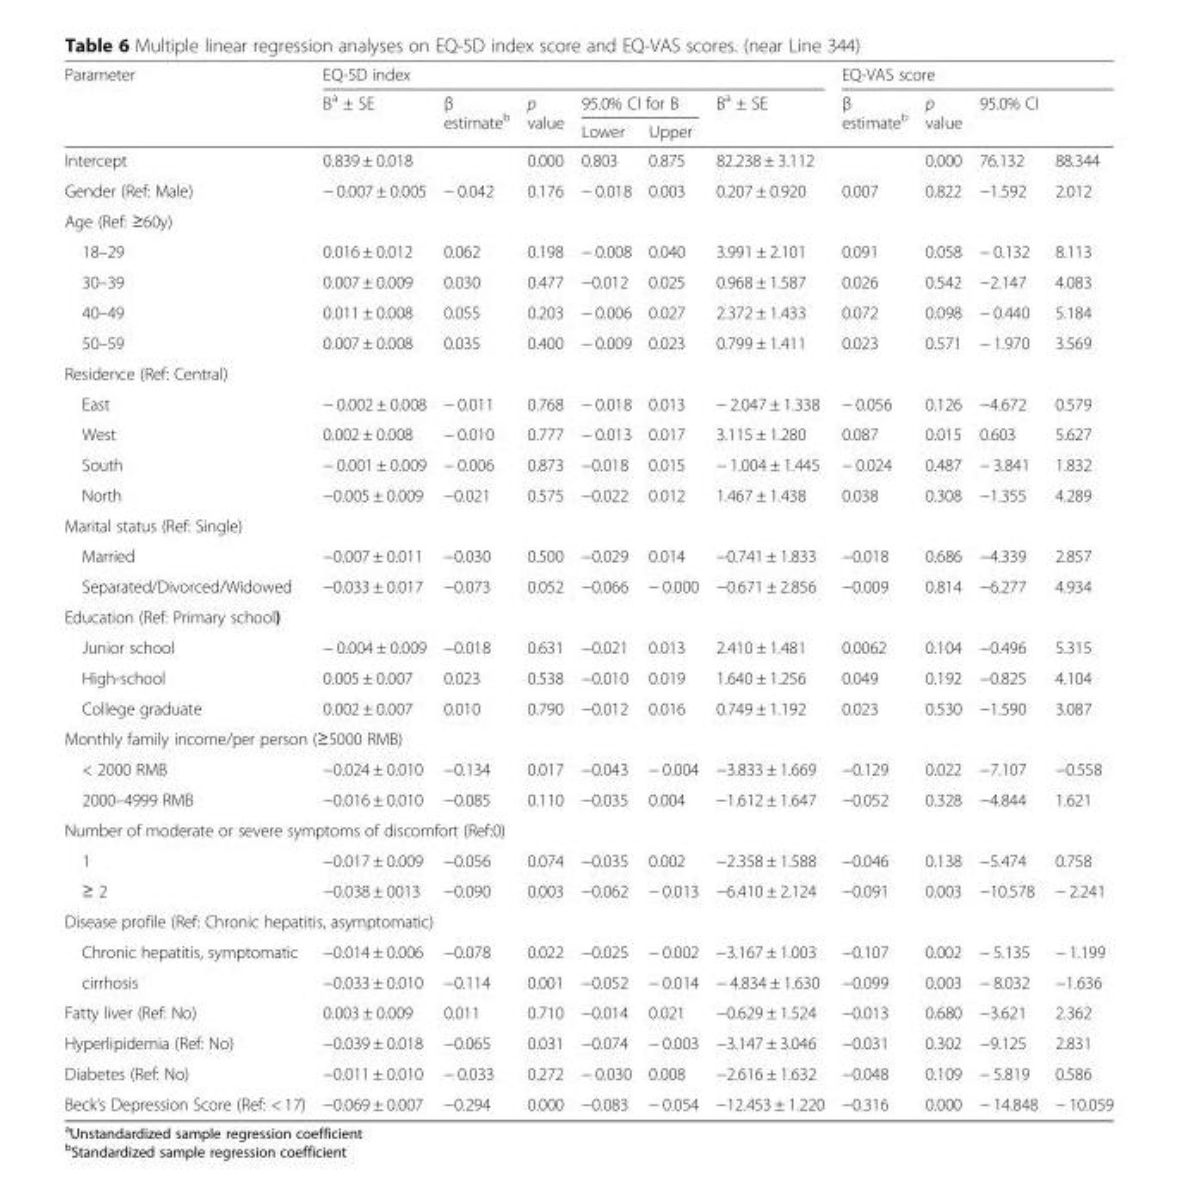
<table><thead><tr><td rowspan="4">Parameter Intercept</td><td colspan="6">EQ-5D index</td><td colspan="4">EQ-VAS score</td></tr><tr><td rowspan="3">B<sup>a</sup> ± SE 0.839 ± 0.018</td><td rowspan="3">β estimate<sup>b</sup></td><td rowspan="3">p value 0.000</td><td colspan="2">95.0% CI for B</td><td rowspan="3">B<sup>a</sup> ± SE 82.238 ± 3.112</td><td rowspan="3">β estimate<sup>b</sup></td><td rowspan="3">p value 0.000</td><td rowspan="2" colspan="2">95.0% CI</td></tr><tr><td rowspan="2">Lower 0.803</td><td rowspan="2">Upper 0.875</td></tr><tr><td>76.132</td><td>88.344</td></tr></thead><tbody><tr><td>Gender (Ref: Male)</td><td>− 0.007 ± 0.005</td><td>− 0.042</td><td>0.176</td><td>− 0.018</td><td>0.003</td><td>0.207 ± 0.920</td><td>0.007</td><td>0.822</td><td>−1.592</td><td>2.012</td></tr><tr><td colspan="11">Age (Ref: ≥60y)</td></tr><tr><td>18–29</td><td>0.016 ± 0.012</td><td>0.062</td><td>0.198</td><td>− 0.008</td><td>0.040</td><td>3.991 ± 2.101</td><td>0.091</td><td>0.058</td><td>− 0.132</td><td>8.113</td></tr><tr><td>30–39</td><td>0.007 ± 0.009</td><td>0.030</td><td>0.477</td><td>−0.012</td><td>0.025</td><td>0.968 ± 1.587</td><td>0.026</td><td>0.542</td><td>−2.147</td><td>4.083</td></tr><tr><td>40–49</td><td>0.011 ± 0.008</td><td>0.055</td><td>0.203</td><td>− 0.006</td><td>0.027</td><td>2.372 ± 1.433</td><td>0.072</td><td>0.098</td><td>− 0.440</td><td>5.184</td></tr><tr><td>50–59</td><td>0.007 ± 0.008</td><td>0.035</td><td>0.400</td><td>− 0.009</td><td>0.023</td><td>0.799 ± 1.411</td><td>0.023</td><td>0.571</td><td>− 1.970</td><td>3.569</td></tr><tr><td colspan="11">Residence (Ref: Central)</td></tr><tr><td>East</td><td>− 0.002 ± 0.008</td><td>− 0.011</td><td>0.768</td><td>− 0.018</td><td>0.013</td><td>− 2.047 ± 1.338</td><td>− 0.056</td><td>0.126</td><td>−4.672</td><td>0.579</td></tr><tr><td>West</td><td>0.002 ± 0.008</td><td>− 0.010</td><td>0.777</td><td>− 0.013</td><td>0.017</td><td>3.115 ± 1.280</td><td>0.087</td><td>0.015</td><td>0.603</td><td>5.627</td></tr><tr><td>South</td><td>− 0.001 ± 0.009</td><td>− 0.006</td><td>0.873</td><td>−0.018</td><td>0.015</td><td>− 1.004 ± 1.445</td><td>− 0.024</td><td>0.487</td><td>− 3.841</td><td>1.832</td></tr><tr><td>North</td><td>−0.005 ± 0.009</td><td>−0.021</td><td>0.575</td><td>−0.022</td><td>0.012</td><td>1.467 ± 1.438</td><td>0.038</td><td>0.308</td><td>−1.355</td><td>4.289</td></tr><tr><td colspan="11">Marital status (Ref: Single)</td></tr><tr><td>Married</td><td>−0.007 ± 0.011</td><td>−0.030</td><td>0.500</td><td>−0.029</td><td>0.014</td><td>−0.741 ± 1.833</td><td>−0.018</td><td>0.686</td><td>−4.339</td><td>2.857</td></tr><tr><td>Separated/Divorced/Widowed</td><td>−0.033 ± 0.017</td><td>−0.073</td><td>0.052</td><td>−0.066</td><td>− 0.000</td><td>−0.671 ± 2.856</td><td>−0.009</td><td>0.814</td><td>−6.277</td><td>4.934</td></tr><tr><td colspan="11">Education (Ref: Primary school)</td></tr><tr><td>Junior school</td><td>− 0.004 ± 0.009</td><td>−0.018</td><td>0.631</td><td>−0.021</td><td>0.013</td><td>2.410 ± 1.481</td><td>0.0062</td><td>0.104</td><td>−0.496</td><td>5.315</td></tr><tr><td>High-school</td><td>0.005 ± 0.007</td><td>0.023</td><td>0.538</td><td>−0.010</td><td>0.019</td><td>1.640 ± 1.256</td><td>0.049</td><td>0.192</td><td>−0.825</td><td>4.104</td></tr><tr><td>College graduate</td><td>0.002 ± 0.007</td><td>0.010</td><td>0.790</td><td>−0.012</td><td>0.016</td><td>0.749 ± 1.192</td><td>0.023</td><td>0.530</td><td>−1.590</td><td>3.087</td></tr><tr><td colspan="11">Monthly family income/per person (≥5000 RMB)</td></tr><tr><td>&lt; 2000 RMB</td><td>−0.024 ± 0.010</td><td>−0.134</td><td>0.017</td><td>−0.043</td><td>− 0.004</td><td>−3.833 ± 1.669</td><td>−0.129</td><td>0.022</td><td>−7.107</td><td>−0.558</td></tr><tr><td>2000–4999 RMB</td><td>−0.016 ± 0.010</td><td>−0.085</td><td>0.110</td><td>−0.035</td><td>0.004</td><td>−1.612 ± 1.647</td><td>−0.052</td><td>0.328</td><td>−4.844</td><td>1.621</td></tr><tr><td colspan="11">Number of moderate or severe symptoms of discomfort (Ref:0)</td></tr><tr><td>1</td><td>−0.017 ± 0.009</td><td>−0.056</td><td>0.074</td><td>−0.035</td><td>0.002</td><td>−2.358 ± 1.588</td><td>−0.046</td><td>0.138</td><td>−5.474</td><td>0.758</td></tr><tr><td>≥ 2</td><td>−0.038 ± 0013</td><td>−0.090</td><td>0.003</td><td>−0.062</td><td>− 0.013</td><td>−6.410 ± 2.124</td><td>−0.091</td><td>0.003</td><td>−10.578</td><td>− 2.241</td></tr><tr><td colspan="11">Disease profile (Ref: Chronic hepatitis, asymptomatic)</td></tr><tr><td>Chronic hepatitis, symptomatic</td><td>−0.014 ± 0.006</td><td>−0.078</td><td>0.022</td><td>−0.025</td><td>− 0.002</td><td>−3.167 ± 1.003</td><td>−0.107</td><td>0.002</td><td>− 5.135</td><td>− 1.199</td></tr><tr><td>cirrhosis</td><td>−0.033 ± 0.010</td><td>−0.114</td><td>0.001</td><td>−0.052</td><td>− 0.014</td><td>− 4.834 ± 1.630</td><td>−0.099</td><td>0.003</td><td>− 8.032</td><td>−1.636</td></tr><tr><td>Fatty liver (Ref: No)</td><td>0.003 ± 0.009</td><td>0.011</td><td>0.710</td><td>−0.014</td><td>0.021</td><td>−0.629 ± 1.524</td><td>−0.013</td><td>0.680</td><td>−3.621</td><td>2.362</td></tr><tr><td>Hyperlipidemia (Ref: No)</td><td>−0.039 ± 0.018</td><td>−0.065</td><td>0.031</td><td>−0.074</td><td>− 0.003</td><td>−3.147 ± 3.046</td><td>−0.031</td><td>0.302</td><td>−9.125</td><td>2.831</td></tr><tr><td>Diabetes (Ref: No)</td><td>−0.011 ± 0.010</td><td>− 0.033</td><td>0.272</td><td>− 0.030</td><td>0.008</td><td>−2.616 ± 1.632</td><td>−0.048</td><td>0.109</td><td>− 5.819</td><td>0.586</td></tr><tr><td>Beck’s Depression Score (Ref: &lt; 17)</td><td>−0.069 ± 0.007</td><td>−0.294</td><td>0.000</td><td>−0.083</td><td>− 0.054</td><td>−12.453 ± 1.220</td><td>−0.316</td><td>0.000</td><td>− 14.848</td><td>− 10.059</td></tr></tbody></table>